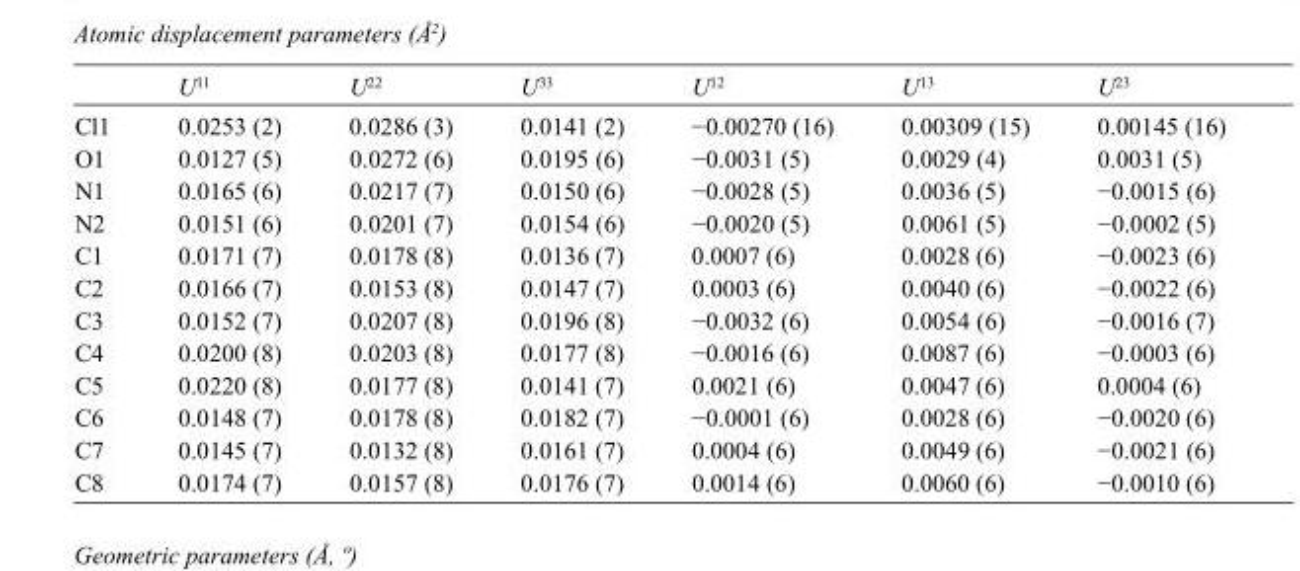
<table><thead><tr><td></td><td>U<sup>11</sup></td><td>U<sup>22</sup></td><td>U<sup>33</sup></td><td>U<sup>12</sup></td><td>U<sup>13</sup></td><td>U<sup>23</sup></td></tr></thead><tbody><tr><td>Cl1</td><td>0.0253 (2)</td><td>0.0286 (3)</td><td>0.0141 (2)</td><td>−0.00270 (16)</td><td>0.00309 (15)</td><td>0.00145 (16)</td></tr><tr><td>O1</td><td>0.0127 (5)</td><td>0.0272 (6)</td><td>0.0195 (6)</td><td>−0.0031 (5)</td><td>0.0029 (4)</td><td>0.0031 (5)</td></tr><tr><td>N1</td><td>0.0165 (6)</td><td>0.0217 (7)</td><td>0.0150 (6)</td><td>−0.0028 (5)</td><td>0.0036 (5)</td><td>−0.0015 (6)</td></tr><tr><td>N2</td><td>0.0151 (6)</td><td>0.0201 (7)</td><td>0.0154 (6)</td><td>−0.0020 (5)</td><td>0.0061 (5)</td><td>−0.0002 (5)</td></tr><tr><td>C1</td><td>0.0171 (7)</td><td>0.0178 (8)</td><td>0.0136 (7)</td><td>0.0007 (6)</td><td>0.0028 (6)</td><td>−0.0023 (6)</td></tr><tr><td>C2</td><td>0.0166 (7)</td><td>0.0153 (8)</td><td>0.0147 (7)</td><td>0.0003 (6)</td><td>0.0040 (6)</td><td>−0.0022 (6)</td></tr><tr><td>C3</td><td>0.0152 (7)</td><td>0.0207 (8)</td><td>0.0196 (8)</td><td>−0.0032 (6)</td><td>0.0054 (6)</td><td>−0.0016 (7)</td></tr><tr><td>C4</td><td>0.0200 (8)</td><td>0.0203 (8)</td><td>0.0177 (8)</td><td>−0.0016 (6)</td><td>0.0087 (6)</td><td>−0.0003 (6)</td></tr><tr><td>C5</td><td>0.0220 (8)</td><td>0.0177 (8)</td><td>0.0141 (7)</td><td>0.0021 (6)</td><td>0.0047 (6)</td><td>0.0004 (6)</td></tr><tr><td>C6</td><td>0.0148 (7)</td><td>0.0178 (8)</td><td>0.0182 (7)</td><td>−0.0001 (6)</td><td>0.0028 (6)</td><td>−0.0020 (6)</td></tr><tr><td>C7</td><td>0.0145 (7)</td><td>0.0132 (8)</td><td>0.0161 (7)</td><td>0.0004 (6)</td><td>0.0049 (6)</td><td>−0.0021 (6)</td></tr><tr><td>C8</td><td>0.0174 (7)</td><td>0.0157 (8)</td><td>0.0176 (7)</td><td>0.0014 (6)</td><td>0.0060 (6)</td><td>−0.0010 (6)</td></tr></tbody></table>